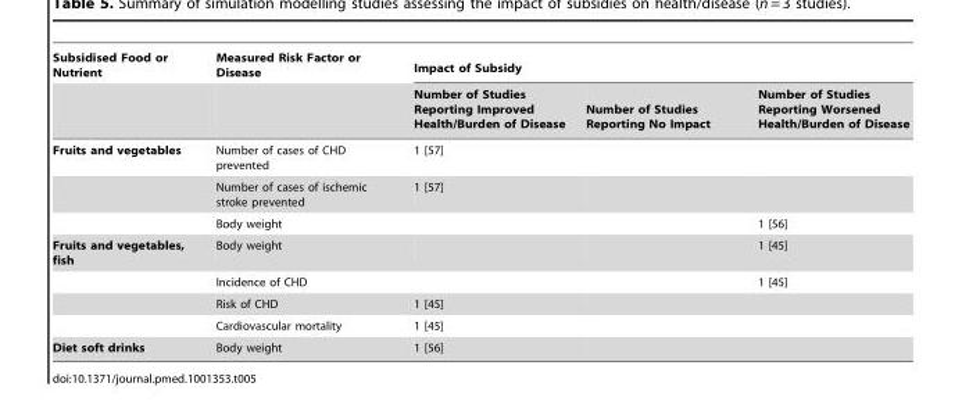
<table><thead><tr><td rowspan="2">Subsidised Food or Nutrient</td><td rowspan="2">Measured Risk Factor or Disease</td><td colspan="3">Impact of Subsidy</td></tr><tr><td>Number of Studies Reporting Improved Health/Burden of Disease</td><td>Number of Studies Reporting No Impact</td><td>Number of Studies Reporting Worsened Health/Burden of Disease</td></tr></thead><tbody><tr><td rowspan="3">Fruits and vegetables</td><td>Number of cases of CHD prevented</td><td>1 [57]</td><td></td><td></td></tr><tr><td>Number of cases of ischemic stroke prevented</td><td>1 [57]</td><td></td><td></td></tr><tr><td>Body weight</td><td></td><td></td><td>1 [56]</td></tr><tr><td rowspan="4">Fruits and vegetables, fish</td><td>Body weight</td><td></td><td></td><td>1 [45]</td></tr><tr><td>Incidence of CHD</td><td></td><td></td><td>1 [45]</td></tr><tr><td>Risk of CHD</td><td>1 [45]</td><td></td><td></td></tr><tr><td>Cardiovascular mortality</td><td>1 [45]</td><td></td><td></td></tr><tr><td>Diet soft drinks</td><td>Body weight</td><td>1 [56]</td><td></td><td></td></tr></tbody></table>